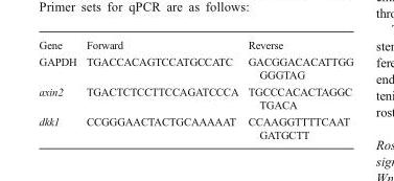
<table><tbody><tr><td>Gene</td><td>Forward</td><td>Reverse</td></tr><tr><td>GAPDH</td><td>TGACCACAGTCCATGCCATC</td><td>GACGGACACATTGG GGGTAG</td></tr><tr><td>axin2</td><td>TGACTCTCCTTCCAGATCCCA</td><td>TGCCCACACTAGGC TGACA</td></tr><tr><td>dkk1</td><td>CCGGGAACTACTGCAAAAAT</td><td>CCAAGGTTTTCAAT GATGCTT</td></tr></tbody></table>